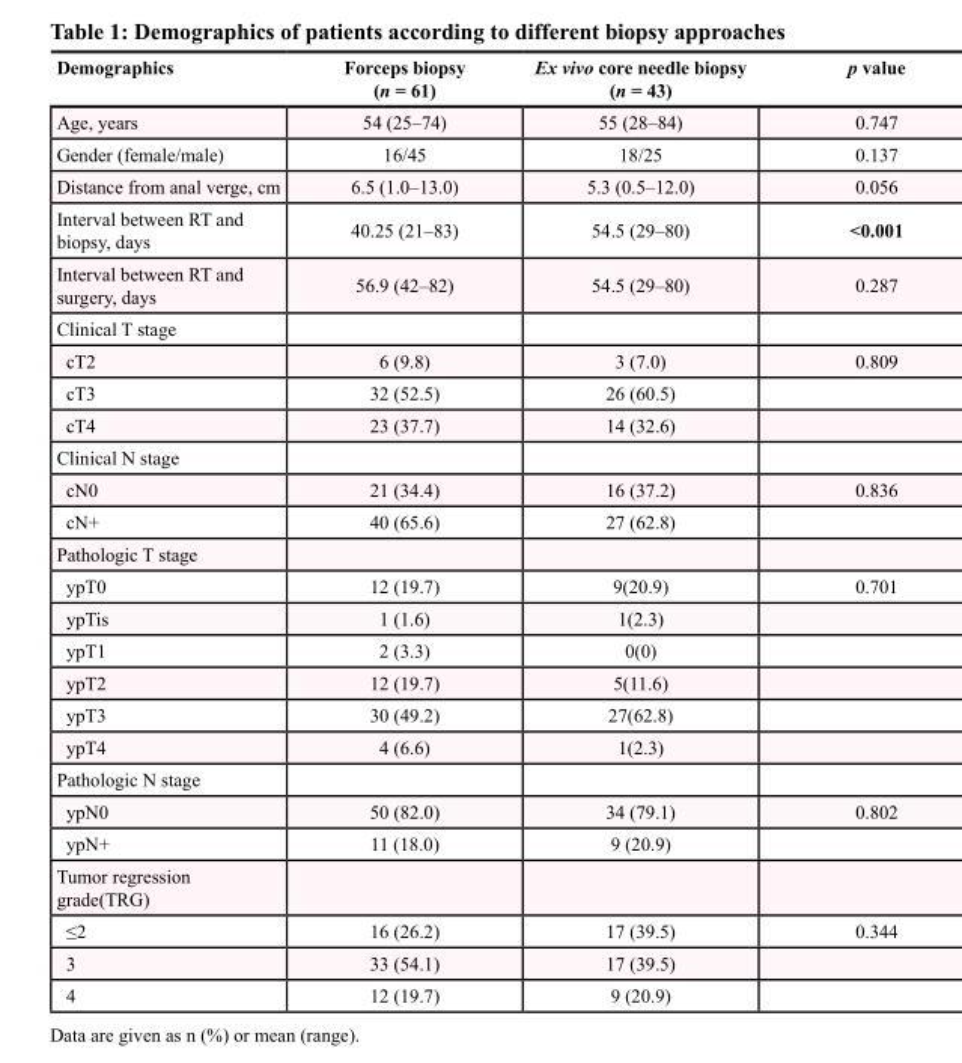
<table><thead><tr><td>Demographics</td><td>Forceps biopsy (n = 61)</td><td>Ex vivo core needle biopsy (n = 43)</td><td>p value</td></tr></thead><tbody><tr><td>Age, years</td><td>54 (25–74)</td><td>55 (28–84)</td><td>0.747</td></tr><tr><td>Gender (female/male)</td><td>16/45</td><td>18/25</td><td>0.137</td></tr><tr><td>Distance from anal verge, cm</td><td>6.5 (1.0–13.0)</td><td>5.3 (0.5–12.0)</td><td>0.056</td></tr><tr><td>Interval between RT and biopsy, days</td><td>40.25 (21–83)</td><td>54.5 (29–80)</td><td>&lt;0.001</td></tr><tr><td>Interval between RT and surgery, days</td><td>56.9 (42–82)</td><td>54.5 (29–80)</td><td>0.287</td></tr><tr><td colspan="4">Clinical T stage</td></tr><tr><td>cT2</td><td>6 (9.8)</td><td>3 (7.0)</td><td>0.809</td></tr><tr><td>cT3</td><td>32 (52.5)</td><td>26 (60.5)</td><td></td></tr><tr><td>cT4</td><td>23 (37.7)</td><td>14 (32.6)</td><td></td></tr><tr><td colspan="4">Clinical N stage</td></tr><tr><td>cN0</td><td>21 (34.4)</td><td>16 (37.2)</td><td>0.836</td></tr><tr><td>cN+</td><td>40 (65.6)</td><td>27 (62.8)</td><td></td></tr><tr><td colspan="4">Pathologic T stage</td></tr><tr><td>ypT0</td><td>12 (19.7)</td><td>9(20.9)</td><td>0.701</td></tr><tr><td>ypTis</td><td>1 (1.6)</td><td>1(2.3)</td><td></td></tr><tr><td>ypT1</td><td>2 (3.3)</td><td>0(0)</td><td></td></tr><tr><td>ypT2</td><td>12 (19.7)</td><td>5(11.6)</td><td></td></tr><tr><td>ypT3</td><td>30 (49.2)</td><td>27(62.8)</td><td></td></tr><tr><td>ypT4</td><td>4 (6.6)</td><td>1(2.3)</td><td></td></tr><tr><td colspan="4">Pathologic N stage</td></tr><tr><td>ypN0</td><td>50 (82.0)</td><td>34 (79.1)</td><td>0.802</td></tr><tr><td>ypN+</td><td>11 (18.0)</td><td>9 (20.9)</td><td></td></tr><tr><td colspan="4">Tumor regression grade(TRG)</td></tr><tr><td>≤2</td><td>16 (26.2)</td><td>17 (39.5)</td><td>0.344</td></tr><tr><td>3</td><td>33 (54.1)</td><td>17 (39.5)</td><td></td></tr><tr><td>4</td><td>12 (19.7)</td><td>9 (20.9)</td><td></td></tr></tbody></table>